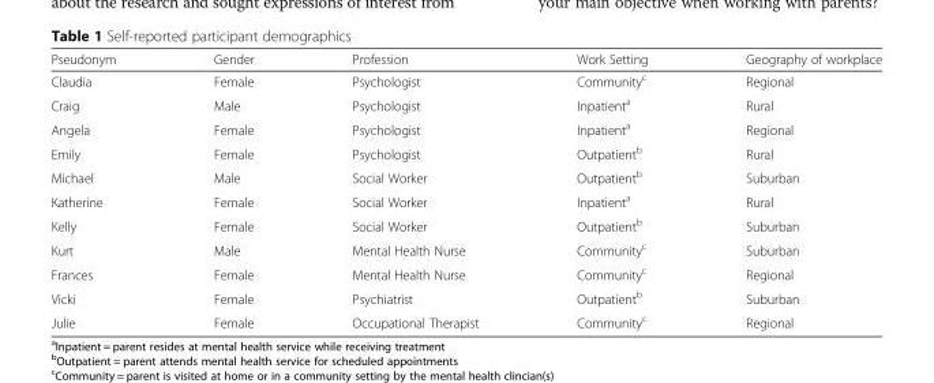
<table><thead><tr><td>Pseudonym</td><td>Gender</td><td>Profession</td><td>Work Setting</td><td>Geography of workplace</td></tr></thead><tbody><tr><td>Claudia</td><td>Female</td><td>Psychologist</td><td>Community<sup>c</sup></td><td>Regional</td></tr><tr><td>Craig</td><td>Male</td><td>Psychologist</td><td>Inpatient<sup>a</sup></td><td>Rural</td></tr><tr><td>Angela</td><td>Female</td><td>Psychologist</td><td>Inpatient<sup>a</sup></td><td>Regional</td></tr><tr><td>Emily</td><td>Female</td><td>Psychologist</td><td>Outpatient<sup>b</sup></td><td>Rural</td></tr><tr><td>Michael</td><td>Male</td><td>Social Worker</td><td>Outpatient<sup>b</sup></td><td>Suburban</td></tr><tr><td>Katherine</td><td>Female</td><td>Social Worker</td><td>Inpatient<sup>a</sup></td><td>Rural</td></tr><tr><td>Kelly</td><td>Female</td><td>Social Worker</td><td>Outpatient<sup>b</sup></td><td>Suburban</td></tr><tr><td>Kurt</td><td>Male</td><td>Mental Health Nurse</td><td>Community<sup>c</sup></td><td>Suburban</td></tr><tr><td>Frances</td><td>Female</td><td>Mental Health Nurse</td><td>Community<sup>c</sup></td><td>Regional</td></tr><tr><td>Vicki</td><td>Female</td><td>Psychiatrist</td><td>Outpatient<sup>b</sup></td><td>Suburban</td></tr><tr><td>Julie</td><td>Female</td><td>Occupational Therapist</td><td>Community<sup>c</sup></td><td>Regional</td></tr></tbody></table>